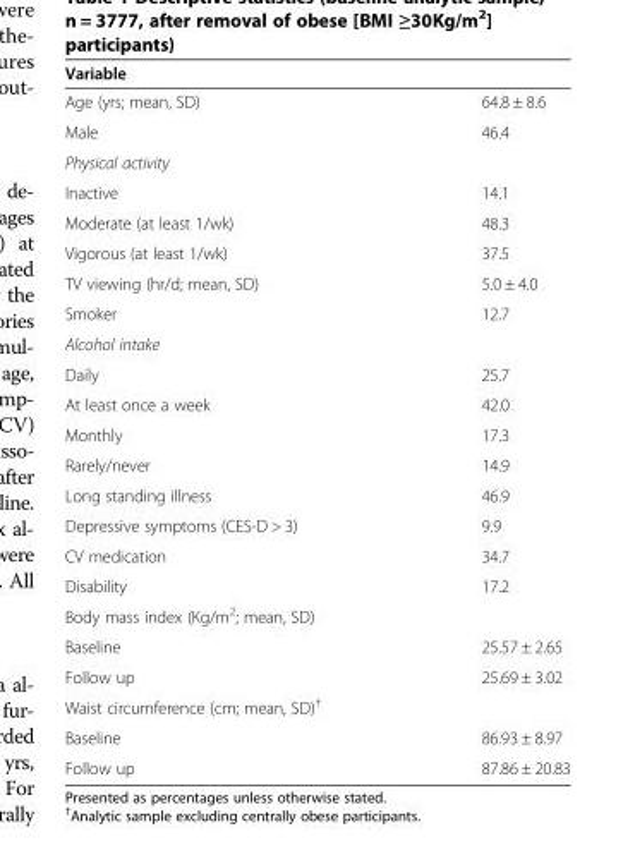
<table><thead><tr><td>Variable</td><td></td></tr></thead><tbody><tr><td>Age (yrs; mean, SD)</td><td>64.8 ± 8.6</td></tr><tr><td>Male</td><td>46.4</td></tr><tr><td colspan="2">Physical activity</td></tr><tr><td>Inactive</td><td>14.1</td></tr><tr><td>Moderate (at least 1/wk)</td><td>48.3</td></tr><tr><td>Vigorous (at least 1/wk)</td><td>37.5</td></tr><tr><td>TV viewing (hr/d; mean, SD)</td><td>5.0 ± 4.0</td></tr><tr><td>Smoker</td><td>12.7</td></tr><tr><td colspan="2">Alcohol intake</td></tr><tr><td>Daily</td><td>25.7</td></tr><tr><td>At least once a week</td><td>42.0</td></tr><tr><td>Monthly</td><td>17.3</td></tr><tr><td>Rarely/never</td><td>14.9</td></tr><tr><td>Long standing illness</td><td>46.9</td></tr><tr><td>Depressive symptoms (CES-D &gt; 3)</td><td>9.9</td></tr><tr><td>CV medication</td><td>34.7</td></tr><tr><td>Disability</td><td>17.2</td></tr><tr><td colspan="2">Body mass index (Kg/m<sup>2</sup>; mean, SD)</td></tr><tr><td>Baseline</td><td>25.57 ± 2.65</td></tr><tr><td>Follow up</td><td>25.69 ± 3.02</td></tr><tr><td colspan="2">Waist circumference (cm; mean, SD)<sup>†</sup></td></tr><tr><td>Baseline</td><td>86.93 ± 8.97</td></tr><tr><td>Follow up</td><td>87.86 ± 20.83</td></tr></tbody></table>